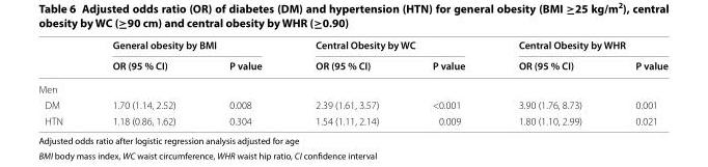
<table><thead><tr><td rowspan="2"></td><td colspan="2">General obesity by BMI</td><td colspan="2">Central Obesity by WC</td><td colspan="2">Central Obesity by WHR</td></tr><tr><td>OR (95 % CI)</td><td>P value</td><td>OR (95 % CI)</td><td>P value</td><td>OR (95 % CI)</td><td>P value</td></tr></thead><tbody><tr><td colspan="7">Men</td></tr><tr><td>DM</td><td>1.70 (1.14, 2.52)</td><td>0.008</td><td>2.39 (1.61, 3.57)</td><td>&lt;0.001</td><td>3.90 (1.76, 8.73)</td><td>0.001</td></tr><tr><td>HTN</td><td>1.18 (0.86, 1.62)</td><td>0.304</td><td>1.54 (1.11, 2.14)</td><td>0.009</td><td>1.80 (1.10, 2.99)</td><td>0.021</td></tr></tbody></table>